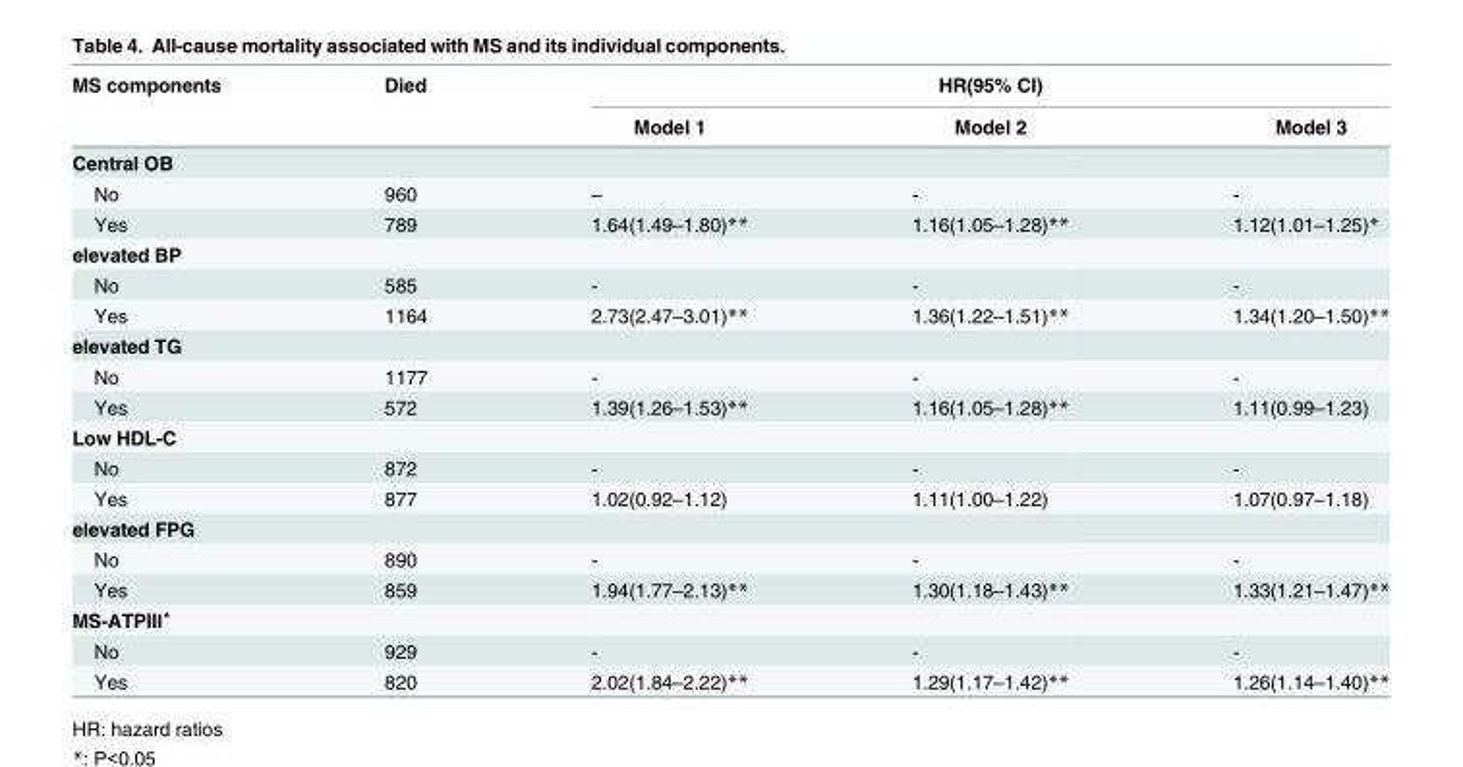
<table><thead><tr><td rowspan="2">MS components</td><td rowspan="2">Died</td><td colspan="3">HR(95% CI)</td></tr><tr><td>Model 1</td><td>Model 2</td><td>Model 3</td></tr></thead><tbody><tr><td colspan="5">Central OB</td></tr><tr><td>No</td><td>960</td><td>–</td><td>-</td><td>-</td></tr><tr><td>Yes</td><td>789</td><td>1.64(1.49–1.80)**</td><td>1.16(1.05–1.28)**</td><td>1.12(1.01–1.25)*</td></tr><tr><td colspan="5">elevated BP</td></tr><tr><td>No</td><td>585</td><td>-</td><td>-</td><td>-</td></tr><tr><td>Yes</td><td>1164</td><td>2.73(2.47–3.01)**</td><td>1.36(1.22–1.51)**</td><td>1.34(1.20–1.50)**</td></tr><tr><td colspan="5">elevated TG</td></tr><tr><td>No</td><td>1177</td><td>-</td><td>-</td><td>-</td></tr><tr><td>Yes</td><td>572</td><td>1.39(1.26–1.53)**</td><td>1.16(1.05–1.28)**</td><td>1.11(0.99–1.23)</td></tr><tr><td colspan="5">Low HDL-C</td></tr><tr><td>No</td><td>872</td><td>-</td><td>-</td><td>-</td></tr><tr><td>Yes</td><td>877</td><td>1.02(0.92–1.12)</td><td>1.11(1.00–1.22)</td><td>1.07(0.97–1.18)</td></tr><tr><td colspan="5">elevated FPG</td></tr><tr><td>No</td><td>890</td><td>-</td><td>-</td><td>-</td></tr><tr><td>Yes</td><td>859</td><td>1.94(1.77–2.13)**</td><td>1.30(1.18–1.43)**</td><td>1.33(1.21–1.47)**</td></tr><tr><td colspan="5">MS-ATPIII<sup>▲</sup></td></tr><tr><td>No</td><td>929</td><td>-</td><td>-</td><td>-</td></tr><tr><td>Yes</td><td>820</td><td>2.02(1.84–2.22)**</td><td>1.29(1.17–1.42)**</td><td>1.26(1.14–1.40)**</td></tr></tbody></table>